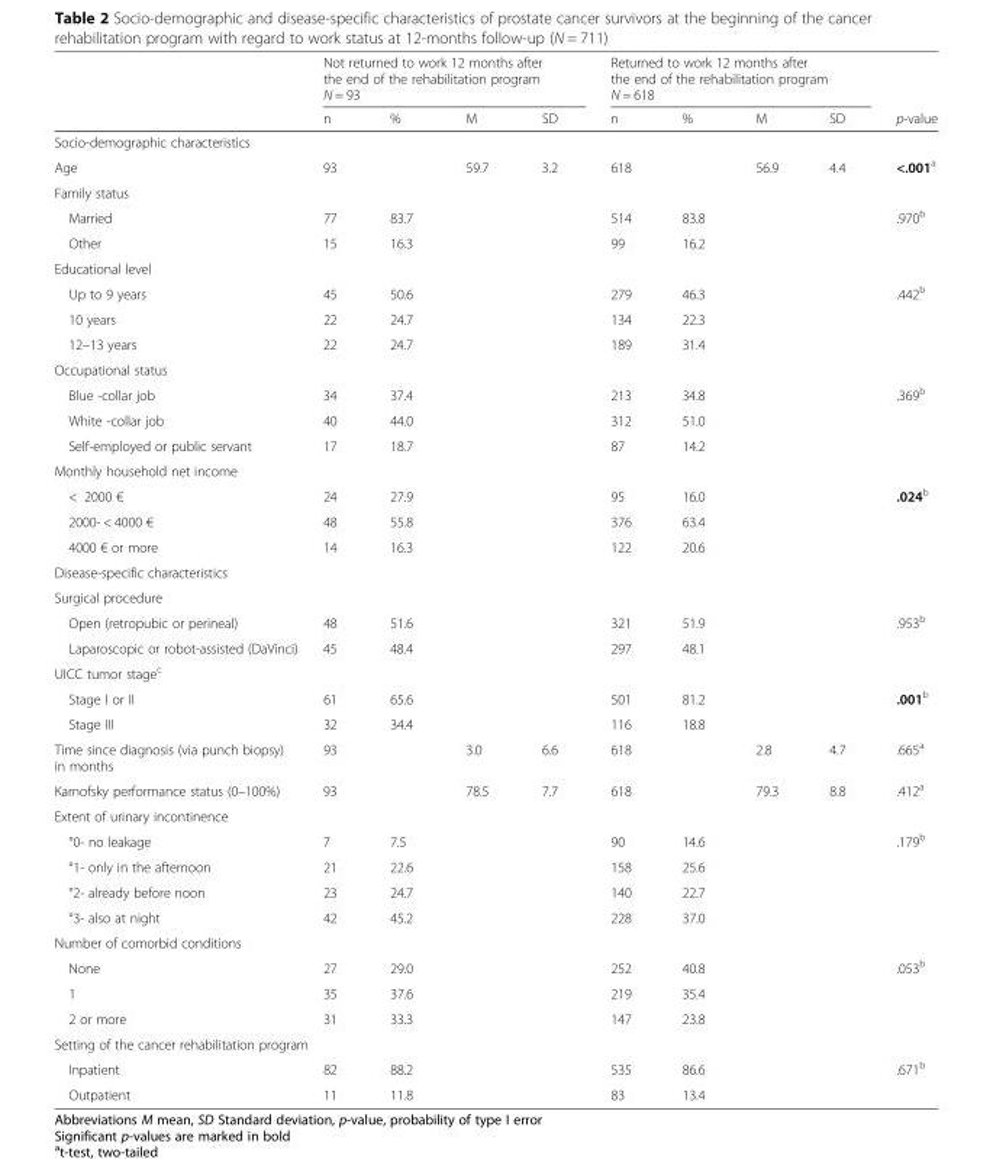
<table><thead><tr><td rowspan="3"></td><td rowspan="2" colspan="4">Not returned to work 12 months after the end of the rehabilitation program N = 93</td><td rowspan="2" colspan="4">Returned to work 12 months after the end of the rehabilitation program N = 618</td><td rowspan="3">p-value</td></tr><tr></tr><tr><td>n</td><td>%</td><td>M</td><td>SD</td><td>n</td><td>%</td><td>M</td><td>SD</td></tr></thead><tbody><tr><td colspan="10">Socio-demographic characteristics</td></tr><tr><td>Age</td><td>93</td><td></td><td>59.7</td><td>3.2</td><td>618</td><td></td><td>56.9</td><td>4.4</td><td>&lt;.001<sup>a</sup></td></tr><tr><td colspan="10">Family status</td></tr><tr><td>Married</td><td>77</td><td>83.7</td><td></td><td></td><td>514</td><td>83.8</td><td></td><td></td><td rowspan="2">.970<sup>b</sup></td></tr><tr><td>Other</td><td>15</td><td>16.3</td><td></td><td></td><td>99</td><td>16.2</td><td></td><td></td></tr><tr><td colspan="10">Educational level</td></tr><tr><td>Up to 9 years</td><td>45</td><td>50.6</td><td></td><td></td><td>279</td><td>46.3</td><td></td><td></td><td rowspan="3">.442<sup>b</sup></td></tr><tr><td>10 years</td><td>22</td><td>24.7</td><td></td><td></td><td>134</td><td>22.3</td><td></td><td></td></tr><tr><td>12–13 years</td><td>22</td><td>24.7</td><td></td><td></td><td>189</td><td>31.4</td><td></td><td></td></tr><tr><td colspan="10">Occupational status</td></tr><tr><td>Blue -collar job</td><td>34</td><td>37.4</td><td></td><td></td><td>213</td><td>34.8</td><td></td><td></td><td rowspan="3">.369<sup>b</sup></td></tr><tr><td>White -collar job</td><td>40</td><td>44.0</td><td></td><td></td><td>312</td><td>51.0</td><td></td><td></td></tr><tr><td>Self-employed or public servant</td><td>17</td><td>18.7</td><td></td><td></td><td>87</td><td>14.2</td><td></td><td></td></tr><tr><td colspan="10">Monthly household net income</td></tr><tr><td>&lt; 2000 €</td><td>24</td><td>27.9</td><td></td><td></td><td>95</td><td>16.0</td><td></td><td></td><td rowspan="3">.024<sup>b</sup></td></tr><tr><td>2000- &lt; 4000 €</td><td>48</td><td>55.8</td><td></td><td></td><td>376</td><td>63.4</td><td></td><td></td></tr><tr><td>4000 € or more</td><td>14</td><td>16.3</td><td></td><td></td><td>122</td><td>20.6</td><td></td><td></td></tr><tr><td colspan="10">Disease-specific characteristics</td></tr><tr><td colspan="10">Surgical procedure</td></tr><tr><td>Open (retropubic or perineal)</td><td>48</td><td>51.6</td><td></td><td></td><td>321</td><td>51.9</td><td></td><td></td><td rowspan="2">.953<sup>b</sup></td></tr><tr><td>Laparoscopic or robot-assisted (DaVinci)</td><td>45</td><td>48.4</td><td></td><td></td><td>297</td><td>48.1</td><td></td><td></td></tr><tr><td colspan="10">UICC tumor stage<sup>c</sup></td></tr><tr><td>Stage I or II</td><td>61</td><td>65.6</td><td></td><td></td><td>501</td><td>81.2</td><td></td><td></td><td rowspan="2">.001<sup>b</sup></td></tr><tr><td>Stage III</td><td>32</td><td>34.4</td><td></td><td></td><td>116</td><td>18.8</td><td></td><td></td></tr><tr><td>Time since diagnosis (via punch biopsy) in months</td><td>93</td><td></td><td>3.0</td><td>6.6</td><td>618</td><td></td><td>2.8</td><td>4.7</td><td>.665<sup>a</sup></td></tr><tr><td>Karnofsky performance status (0–100%)</td><td>93</td><td></td><td>78.5</td><td>7.7</td><td>618</td><td></td><td>79.3</td><td>8.8</td><td>.412<sup>a</sup></td></tr><tr><td colspan="10">Extent of urinary incontinence</td></tr><tr><td>°0- no leakage</td><td>7</td><td>7.5</td><td></td><td></td><td>90</td><td>14.6</td><td></td><td></td><td rowspan="4">.179<sup>b</sup></td></tr><tr><td>°1- only in the afternoon</td><td>21</td><td>22.6</td><td></td><td></td><td>158</td><td>25.6</td><td></td><td></td></tr><tr><td>°2- already before noon</td><td>23</td><td>24.7</td><td></td><td></td><td>140</td><td>22.7</td><td></td><td></td></tr><tr><td>°3- also at night</td><td>42</td><td>45.2</td><td></td><td></td><td>228</td><td>37.0</td><td></td><td></td></tr><tr><td colspan="10">Number of comorbid conditions</td></tr><tr><td>None</td><td>27</td><td>29.0</td><td></td><td></td><td>252</td><td>40.8</td><td></td><td></td><td rowspan="3">.053<sup>b</sup></td></tr><tr><td>1</td><td>35</td><td>37.6</td><td></td><td></td><td>219</td><td>35.4</td><td></td><td></td></tr><tr><td>2 or more</td><td>31</td><td>33.3</td><td></td><td></td><td>147</td><td>23.8</td><td></td><td></td></tr><tr><td colspan="10">Setting of the cancer rehabilitation program</td></tr><tr><td>Inpatient</td><td>82</td><td>88.2</td><td></td><td></td><td>535</td><td>86.6</td><td></td><td></td><td rowspan="2">.671<sup>b</sup></td></tr><tr><td>Outpatient</td><td>11</td><td>11.8</td><td></td><td></td><td>83</td><td>13.4</td><td></td><td></td></tr></tbody></table>